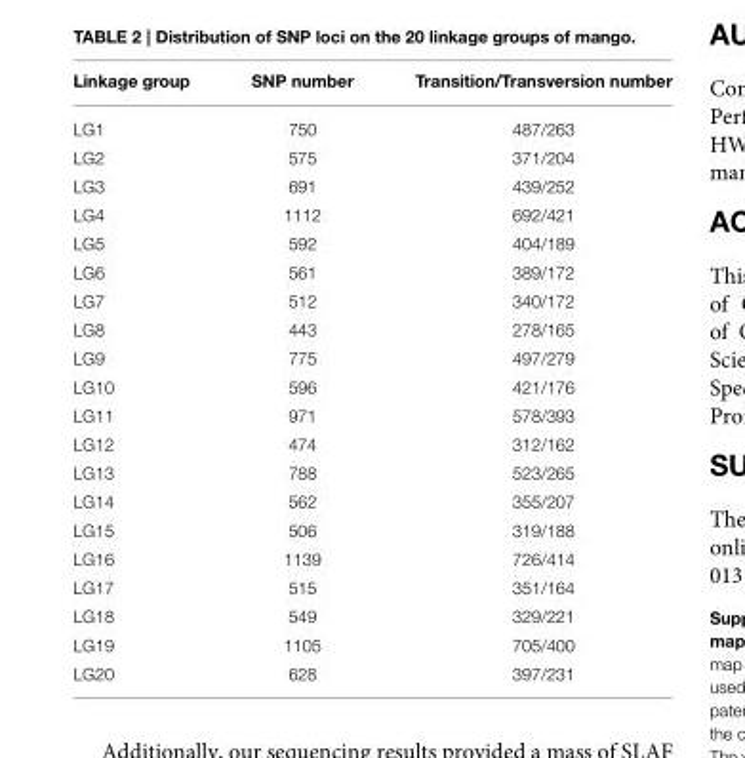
<table><thead><tr><td>Linkage group</td><td>SNP number</td><td>Transition/Transversion number</td></tr></thead><tbody><tr><td>LG1</td><td>750</td><td>487/263</td></tr><tr><td>LG2</td><td>575</td><td>371/204</td></tr><tr><td>LG3</td><td>691</td><td>439/252</td></tr><tr><td>LG4</td><td>1112</td><td>692/421</td></tr><tr><td>LG5</td><td>592</td><td>404/189</td></tr><tr><td>LG6</td><td>561</td><td>389/172</td></tr><tr><td>LG7</td><td>512</td><td>340/172</td></tr><tr><td>LG8</td><td>443</td><td>278/165</td></tr><tr><td>LG9</td><td>775</td><td>497/279</td></tr><tr><td>LG10</td><td>596</td><td>421/176</td></tr><tr><td>LG11</td><td>971</td><td>578/393</td></tr><tr><td>LG12</td><td>474</td><td>312/162</td></tr><tr><td>LG13</td><td>788</td><td>523/265</td></tr><tr><td>LG14</td><td>562</td><td>355/207</td></tr><tr><td>LG15</td><td>506</td><td>319/188</td></tr><tr><td>LG16</td><td>1139</td><td>726/414</td></tr><tr><td>LG17</td><td>515</td><td>351/164</td></tr><tr><td>LG18</td><td>549</td><td>329/221</td></tr><tr><td>LG19</td><td>1105</td><td>705/400</td></tr><tr><td>LG20</td><td>628</td><td>397/231</td></tr></tbody></table>